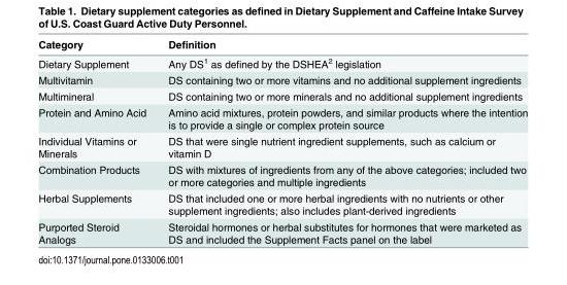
<table><thead><tr><td>Category</td><td>Definition</td></tr></thead><tbody><tr><td>Dietary Supplement</td><td>Any DS<sup>1</sup> as defined by the DSHEA<sup>2</sup> legislation</td></tr><tr><td>Multivitamin</td><td>DS containing two or more vitamins and no additional supplement ingredients</td></tr><tr><td>Multimineral</td><td>DS containing two or more minerals and no additional supplement ingredients</td></tr><tr><td>Protein and Amino Acid</td><td>Amino acid mixtures, protein powders, and similar products where the intention is to provide a single or complex protein source</td></tr><tr><td>Individual Vitamins or Minerals</td><td>DS that were single nutrient ingredient supplements, such as calcium or vitamin D</td></tr><tr><td>Combination Products</td><td>DS with mixtures of ingredients from any of the above categories; included two or more categories and multiple ingredients</td></tr><tr><td>Herbal Supplements</td><td>DS that included one or more herbal ingredients with no nutrients or other supplement ingredients; also includes plant-derived ingredients</td></tr><tr><td>Purported Steroid Analogs</td><td>Steroidal hormones or herbal substitutes for hormones that were marketed as DS and included the Supplement Facts panel on the label</td></tr></tbody></table>